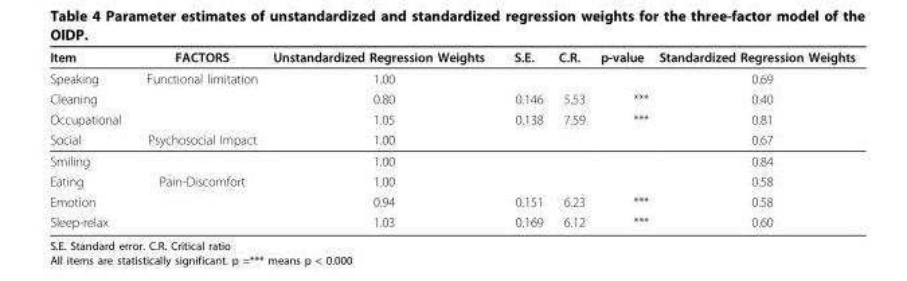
<table><thead><tr><td>Item</td><td>FACTORS</td><td>Unstandardized Regression Weights</td><td>S.E.</td><td>C.R.</td><td>p-value</td><td>Standardized Regression Weights</td></tr></thead><tbody><tr><td>Speaking</td><td>Functional limitation</td><td>1.00</td><td></td><td></td><td></td><td>0.69</td></tr><tr><td>Cleaning</td><td></td><td>0.80</td><td>0.146</td><td>5.53</td><td>***</td><td>0.40</td></tr><tr><td>Occupational</td><td></td><td>1.05</td><td>0.138</td><td>7.59</td><td>***</td><td>0.81</td></tr><tr><td>Social</td><td>Psychosocial Impact</td><td>1.00</td><td></td><td></td><td></td><td>0.67</td></tr><tr><td>Smiling</td><td></td><td>1.00</td><td></td><td></td><td></td><td>0.84</td></tr><tr><td>Eating</td><td>Pain-Discomfort</td><td>1.00</td><td></td><td></td><td></td><td>0.58</td></tr><tr><td>Emotion</td><td></td><td>0.94</td><td>0.151</td><td>6.23</td><td>***</td><td>0.58</td></tr><tr><td>Sleep-relax</td><td></td><td>1.03</td><td>0.169</td><td>6.12</td><td>***</td><td>0.60</td></tr></tbody></table>